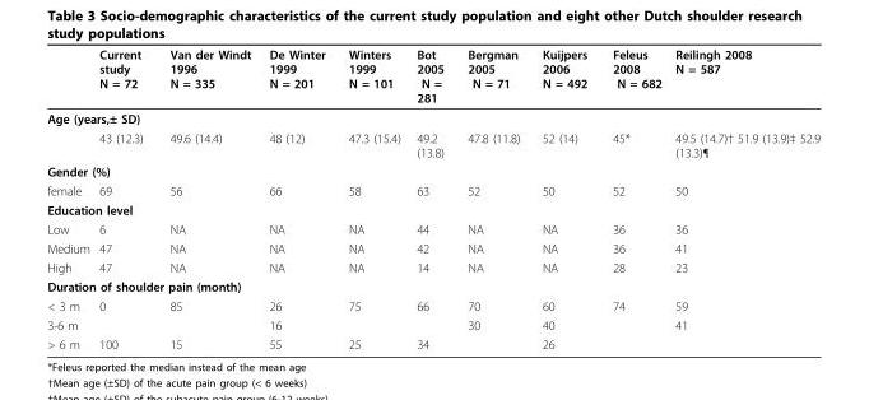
<table><thead><tr><td></td><td>Current study N = 72</td><td>Van der Windt 1996 N = 335</td><td>De Winter 1999 N = 201</td><td>Winters 1999 N = 101</td><td>Bot 2005 N = 281</td><td>Bergman 2005 N = 71</td><td>Kuijpers 2006 N = 492</td><td>Feleus 2008 N = 682</td><td>Reilingh 2008 N = 587</td></tr></thead><tbody><tr><td colspan="10">Age (years,± SD)</td></tr><tr><td></td><td>43 (12.3)</td><td>49.6 (14.4)</td><td>48 (12)</td><td>47.3 (15.4)</td><td>49.2 (13.8)</td><td>47.8 (11.8)</td><td>52 (14)</td><td>45*</td><td>49.5 (14.7)† 51.9 (13.9)‡ 52.9 (13.3)¶</td></tr><tr><td colspan="10">Gender (%)</td></tr><tr><td>female</td><td>69</td><td>56</td><td>66</td><td>58</td><td>63</td><td>52</td><td>50</td><td>52</td><td>50</td></tr><tr><td colspan="10">Education level</td></tr><tr><td>Low</td><td>6</td><td>NA</td><td>NA</td><td>NA</td><td>44</td><td>NA</td><td>NA</td><td>36</td><td>36</td></tr><tr><td>Medium</td><td>47</td><td>NA</td><td>NA</td><td>NA</td><td>42</td><td>NA</td><td>NA</td><td>36</td><td>41</td></tr><tr><td>High</td><td>47</td><td>NA</td><td>NA</td><td>NA</td><td>14</td><td>NA</td><td>NA</td><td>28</td><td>23</td></tr><tr><td colspan="10">Duration of shoulder pain (month)</td></tr><tr><td>&lt; 3 m</td><td>0</td><td>85</td><td>26</td><td>75</td><td>66</td><td>70</td><td>60</td><td>74</td><td>59</td></tr><tr><td>3-6 m</td><td></td><td></td><td>16</td><td></td><td></td><td>30</td><td>40</td><td></td><td>41</td></tr><tr><td>&gt; 6 m</td><td>100</td><td>15</td><td>55</td><td>25</td><td>34</td><td></td><td>26</td><td></td><td></td></tr></tbody></table>